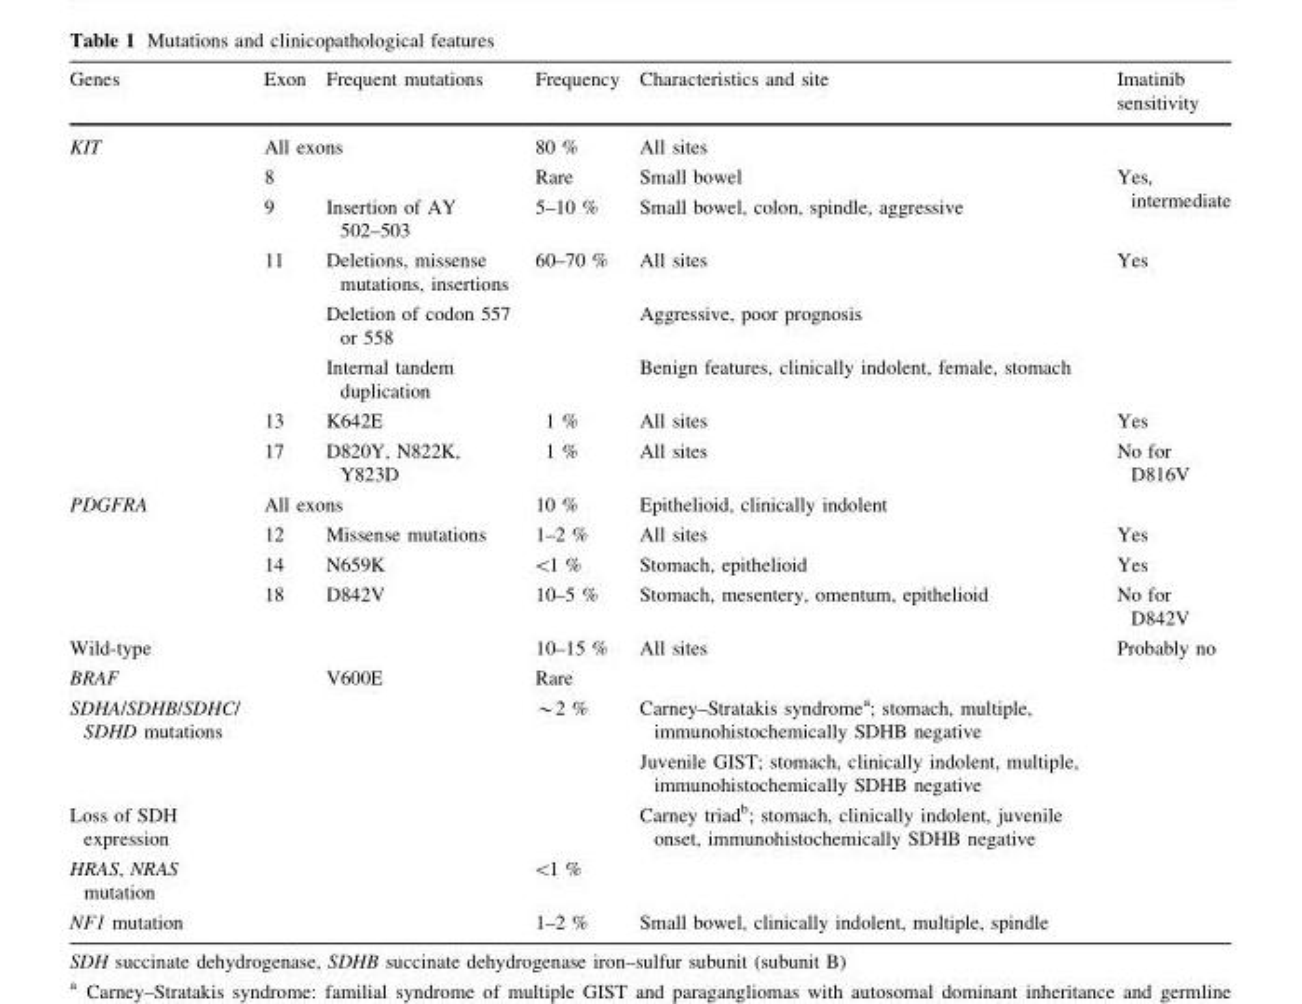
<table><thead><tr><td>Genes</td><td>Exon</td><td>Frequent mutations</td><td>Frequency</td><td>Characteristics and site</td><td>Imatinib sensitivity</td></tr></thead><tbody><tr><td rowspan="8">KIT</td><td colspan="2">All exons</td><td>80 %</td><td>All sites</td><td></td></tr><tr><td>8</td><td></td><td>Rare</td><td>Small bowel</td><td rowspan="2">Yes, intermediate</td></tr><tr><td>9</td><td>Insertion of AY 502–503</td><td>5–10 %</td><td>Small bowel, colon, spindle, aggressive</td></tr><tr><td rowspan="3">11</td><td>Deletions, missense mutations, insertions</td><td>60–70 %</td><td>All sites</td><td rowspan="3">Yes</td></tr><tr><td>Deletion of codon 557 or 558</td><td></td><td>Aggressive, poor prognosis</td></tr><tr><td>Internal tandem duplication</td><td></td><td>Benign features, clinically indolent, female, stomach</td></tr><tr><td>13</td><td>K642E</td><td>1 %</td><td>All sites</td><td>Yes</td></tr><tr><td>17</td><td>D820Y, N822K, Y823D</td><td>1 %</td><td>All sites</td><td>No for D816V</td></tr><tr><td rowspan="4">PDGFRA</td><td colspan="2">All exons</td><td>10 %</td><td>Epithelioid, clinically indolent</td><td></td></tr><tr><td>12</td><td>Missense mutations</td><td>1–2 %</td><td>All sites</td><td>Yes</td></tr><tr><td>14</td><td>N659K</td><td>&lt;1 %</td><td>Stomach, epithelioid</td><td>Yes</td></tr><tr><td>18</td><td>D842V</td><td>10–5 %</td><td>Stomach, mesentery, omentum, epithelioid</td><td>No for D842V</td></tr><tr><td>Wild-type</td><td colspan="2"></td><td>10–15 %</td><td>All sites</td><td rowspan="7">Probably no</td></tr><tr><td>BRAF</td><td></td><td>V600E</td><td>Rare</td><td></td></tr><tr><td rowspan="2">SDHA/SDHB/SDHC/ SDHD mutations</td><td rowspan="2"></td><td rowspan="2"></td><td rowspan="3">*2 %</td><td>Carney–Stratakis syndrome<sup>a</sup>; stomach, multiple, immunohistochemically SDHB negative</td></tr><tr><td>Juvenile GIST; stomach, clinically indolent, multiple, immunohistochemically SDHB negative</td></tr><tr><td>Loss of SDH expression</td><td></td><td></td><td>Carney triad<sup>b</sup>; stomach, clinically indolent, juvenile onset, immunohistochemically SDHB negative</td></tr><tr><td>HRAS, NRAS mutation</td><td></td><td></td><td>&lt;1 %</td><td></td></tr><tr><td>NF1 mutation</td><td></td><td></td><td>1–2 %</td><td>Small bowel, clinically indolent, multiple, spindle</td></tr></tbody></table>